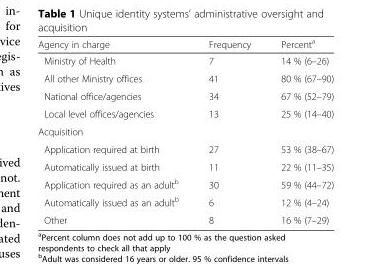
<table><thead><tr><td>Agency in charge</td><td>Frequency</td><td>Percent<sup>a</sup></td></tr></thead><tbody><tr><td>Ministry of Health</td><td>7</td><td>14 % (6–26)</td></tr><tr><td>All other Ministry offices</td><td>41</td><td>80 % (67–90)</td></tr><tr><td>National office/agencies</td><td>34</td><td>67 % (52–79)</td></tr><tr><td>Local level offices/agencies</td><td>13</td><td>25 % (14–40)</td></tr><tr><td colspan="3">Acquisition</td></tr><tr><td>Application required at birth</td><td>27</td><td>53 % (38–67)</td></tr><tr><td>Automatically issued at birth</td><td>11</td><td>22 % (11–35)</td></tr><tr><td>Application required as an adult<sup>b</sup></td><td>30</td><td>59 % (44–72)</td></tr><tr><td>Automatically issued as an adult<sup>b</sup></td><td>6</td><td>12 % (4–24)</td></tr><tr><td>Other</td><td>8</td><td>16 % (7–29)</td></tr></tbody></table>